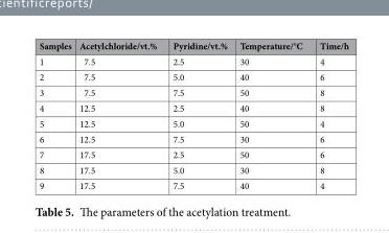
<table><thead><tr><td>Samples</td><td>Acetylchloride/vt.%</td><td>Pyridine/vt.%</td><td>Temperature/°C</td><td>Time/h</td></tr></thead><tbody><tr><td>1</td><td>7.5</td><td>2.5</td><td>30</td><td>4</td></tr><tr><td>2</td><td>7.5</td><td>5.0</td><td>40</td><td>6</td></tr><tr><td>3</td><td>7.5</td><td>7.5</td><td>50</td><td>8</td></tr><tr><td>4</td><td>12.5</td><td>2.5</td><td>40</td><td>8</td></tr><tr><td>5</td><td>12.5</td><td>5.0</td><td>50</td><td>4</td></tr><tr><td>6</td><td>12.5</td><td>7.5</td><td>30</td><td>6</td></tr><tr><td>7</td><td>17.5</td><td>2.5</td><td>50</td><td>6</td></tr><tr><td>8</td><td>17.5</td><td>5.0</td><td>30</td><td>8</td></tr><tr><td>9</td><td>17.5</td><td>7.5</td><td>40</td><td>4</td></tr></tbody></table>